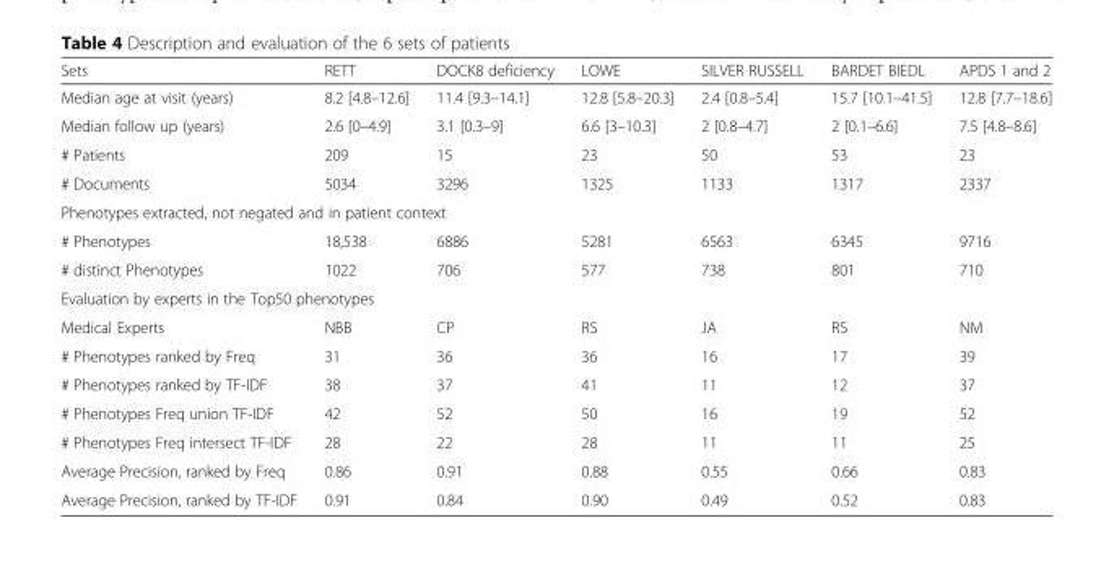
<table><thead><tr><td>Sets</td><td>RETT</td><td>DOCK8 deficiency</td><td>LOWE</td><td>SILVER RUSSELL</td><td>BARDET BIEDL</td><td>APDS 1 and 2</td></tr></thead><tbody><tr><td>Median age at visit (years)</td><td>8.2 [4.8–12.6]</td><td>11.4 [9.3–14.1]</td><td>12.8 [5.8–20.3]</td><td>2.4 [0.8–5.4]</td><td>15.7 [10.1–41.5]</td><td>12.8 [7.7–18.6]</td></tr><tr><td>Median follow up (years)</td><td>2.6 [0–4.9]</td><td>3.1 [0.3–9]</td><td>6.6 [3–10.3]</td><td>2 [0.8–4.7]</td><td>2 [0.1–6.6]</td><td>7.5 [4.8–8.6]</td></tr><tr><td># Patients</td><td>209</td><td>15</td><td>23</td><td>50</td><td>53</td><td>23</td></tr><tr><td># Documents</td><td>5034</td><td>3296</td><td>1325</td><td>1133</td><td>1317</td><td>2337</td></tr><tr><td colspan="7">Phenotypes extracted, not negated and in patient context</td></tr><tr><td># Phenotypes</td><td>18,538</td><td>6886</td><td>5281</td><td>6563</td><td>6345</td><td>9716</td></tr><tr><td># distinct Phenotypes</td><td>1022</td><td>706</td><td>577</td><td>738</td><td>801</td><td>710</td></tr><tr><td colspan="7">Evaluation by experts in the Top50 phenotypes</td></tr><tr><td>Medical Experts</td><td>NBB</td><td>CP</td><td>RS</td><td>JA</td><td>RS</td><td>NM</td></tr><tr><td># Phenotypes ranked by Freq</td><td>31</td><td>36</td><td>36</td><td>16</td><td>17</td><td>39</td></tr><tr><td># Phenotypes ranked by TF-IDF</td><td>38</td><td>37</td><td>41</td><td>11</td><td>12</td><td>37</td></tr><tr><td># Phenotypes Freq union TF-IDF</td><td>42</td><td>52</td><td>50</td><td>16</td><td>19</td><td>52</td></tr><tr><td># Phenotypes Freq intersect TF-IDF</td><td>28</td><td>22</td><td>28</td><td>11</td><td>11</td><td>25</td></tr><tr><td>Average Precision, ranked by Freq</td><td>0.86</td><td>0.91</td><td>0.88</td><td>0.55</td><td>0.66</td><td>0.83</td></tr><tr><td>Average Precision, ranked by TF-IDF</td><td>0.91</td><td>0.84</td><td>0.90</td><td>0.49</td><td>0.52</td><td>0.83</td></tr></tbody></table>